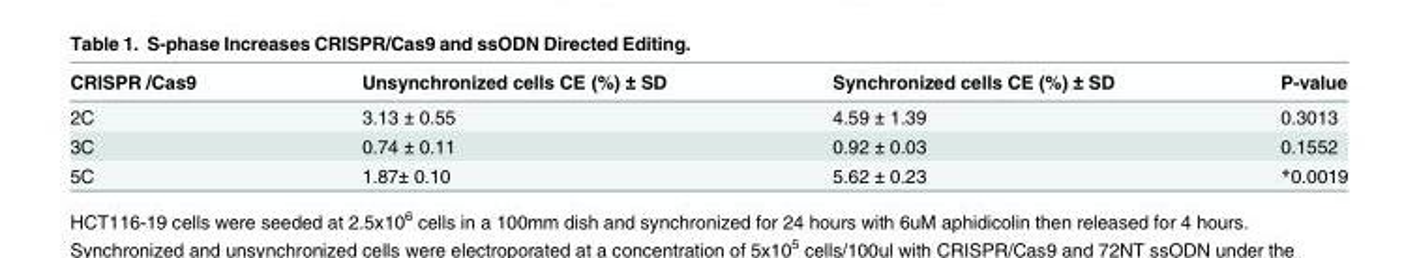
<table><thead><tr><td>CRISPR /Cas9</td><td>Unsynchronized cells CE (%) ± SD</td><td>Synchronized cells CE (%) ± SD</td><td>P-value</td></tr></thead><tbody><tr><td>2C</td><td>3.13 ± 0.55</td><td>4.59 ± 1.39</td><td>0.3013</td></tr><tr><td>3C</td><td>0.74 ± 0.11</td><td>0.92 ± 0.03</td><td>0.1552</td></tr><tr><td>5C</td><td>1.87± 0.10</td><td>5.62 ± 0.23</td><td>*0.0019</td></tr></tbody></table>